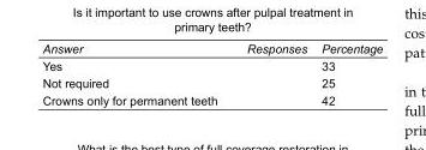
<table><tbody><tr><td>Answer</td><td>Responses</td><td>Percentage</td></tr><tr><td>Yes</td><td></td><td>33</td></tr><tr><td>Not required</td><td></td><td>25</td></tr><tr><td>Crowns only for permanent teeth</td><td></td><td>42</td></tr></tbody></table>